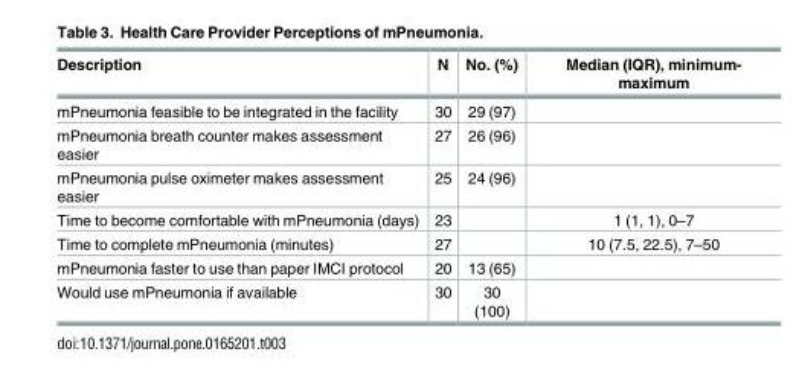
<table><thead><tr><td>Description</td><td>N</td><td>No. (%)</td><td>Median (IQR), minimum- maximum</td></tr></thead><tbody><tr><td>mPneumonia feasible to be integrated in the facility</td><td>30</td><td>29 (97)</td><td></td></tr><tr><td>mPneumonia breath counter makes assessment easier</td><td>27</td><td>26 (96)</td><td></td></tr><tr><td>mPneumonia pulse oximeter makes assessment easier</td><td>25</td><td>24 (96)</td><td></td></tr><tr><td>Time to become comfortable with mPneumonia (days)</td><td>23</td><td></td><td>1 (1, 1), 0–7</td></tr><tr><td>Time to complete mPneumonia (minutes)</td><td>27</td><td></td><td>10 (7.5, 22.5), 7–50</td></tr><tr><td>mPneumonia faster to use than paper IMCI protocol</td><td>20</td><td>13 (65)</td><td></td></tr><tr><td>Would use mPneumonia if available</td><td>30</td><td>30 (100)</td><td></td></tr></tbody></table>